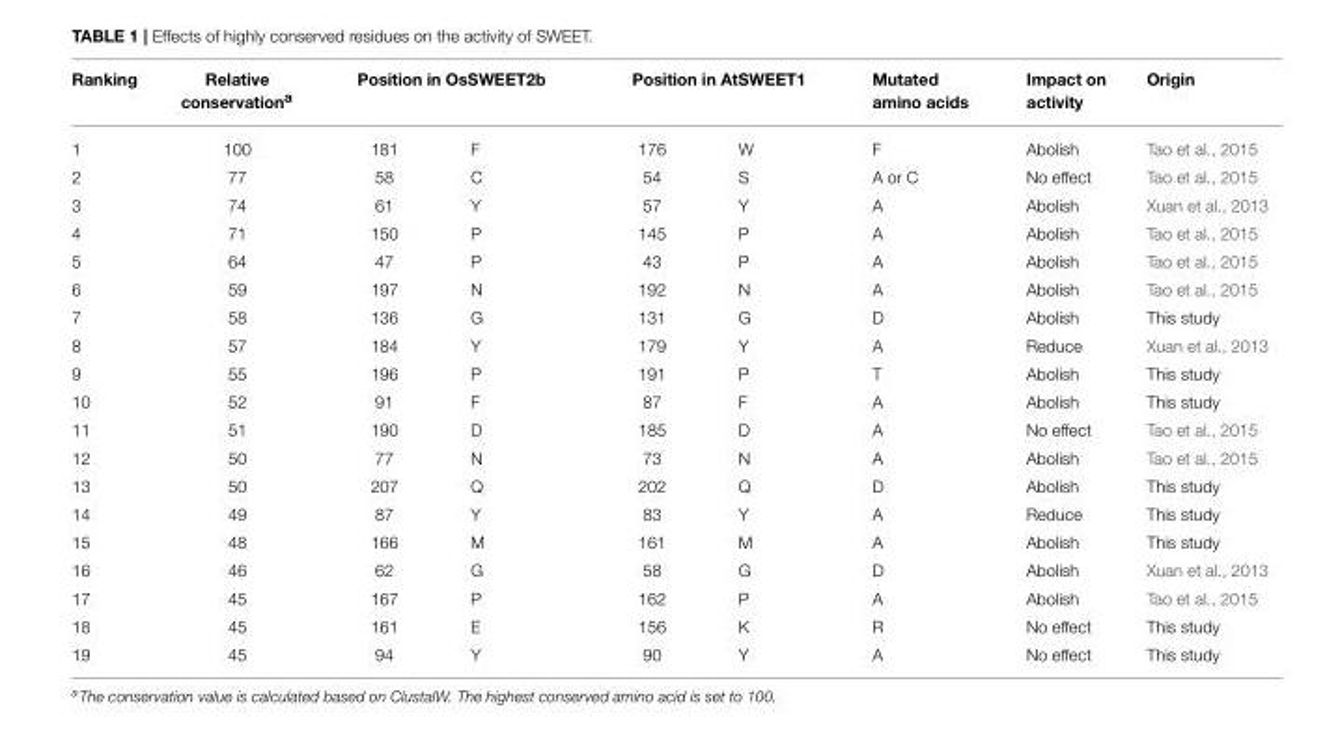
<table><thead><tr><td rowspan="2">Ranking 1</td><td rowspan="2">Relative conservation<sup>a</sup> 100</td><td colspan="2">Position in OsSWEET2b</td><td colspan="2">Position in AtSWEET1</td><td rowspan="2">Mutated amino acids F</td><td rowspan="2">Impact on activity Abolish</td><td rowspan="2">Origin Tao et al., 2015</td></tr><tr><td>181</td><td>F</td><td>176</td><td>W</td></tr></thead><tbody><tr><td>2</td><td>77</td><td>58</td><td>C</td><td>54</td><td>S</td><td>A or C</td><td>No effect</td><td>Tao et al., 2015</td></tr><tr><td>3</td><td>74</td><td>61</td><td>Y</td><td>57</td><td>Y</td><td>A</td><td>Abolish</td><td>Xuan et al., 2013</td></tr><tr><td>4</td><td>71</td><td>150</td><td>P</td><td>145</td><td>P</td><td>A</td><td>Abolish</td><td>Tao et al., 2015</td></tr><tr><td>5</td><td>64</td><td>47</td><td>P</td><td>43</td><td>P</td><td>A</td><td>Abolish</td><td>Tao et al., 2015</td></tr><tr><td>6</td><td>59</td><td>197</td><td>N</td><td>192</td><td>N</td><td>A</td><td>Abolish</td><td>Tao et al., 2015</td></tr><tr><td>7</td><td>58</td><td>136</td><td>G</td><td>131</td><td>G</td><td>D</td><td>Abolish</td><td>This study</td></tr><tr><td>8</td><td>57</td><td>184</td><td>Y</td><td>179</td><td>Y</td><td>A</td><td>Reduce</td><td>Xuan et al., 2013</td></tr><tr><td>9</td><td>55</td><td>196</td><td>P</td><td>191</td><td>P</td><td>T</td><td>Abolish</td><td>This study</td></tr><tr><td>10</td><td>52</td><td>91</td><td>F</td><td>87</td><td>F</td><td>A</td><td>Abolish</td><td>This study</td></tr><tr><td>11</td><td>51</td><td>190</td><td>D</td><td>185</td><td>D</td><td>A</td><td>No effect</td><td>Tao et al., 2015</td></tr><tr><td>12</td><td>50</td><td>77</td><td>N</td><td>73</td><td>N</td><td>A</td><td>Abolish</td><td>Tao et al., 2015</td></tr><tr><td>13</td><td>50</td><td>207</td><td>Q</td><td>202</td><td>Q</td><td>D</td><td>Abolish</td><td>This study</td></tr><tr><td>14</td><td>49</td><td>87</td><td>Y</td><td>83</td><td>Y</td><td>A</td><td>Reduce</td><td>This study</td></tr><tr><td>15</td><td>48</td><td>166</td><td>M</td><td>161</td><td>M</td><td>A</td><td>Abolish</td><td>This study</td></tr><tr><td>16</td><td>46</td><td>62</td><td>G</td><td>58</td><td>G</td><td>D</td><td>Abolish</td><td>Xuan et al., 2013</td></tr><tr><td>17</td><td>45</td><td>167</td><td>P</td><td>162</td><td>P</td><td>A</td><td>Abolish</td><td>Tao et al., 2015</td></tr><tr><td>18</td><td>45</td><td>161</td><td>E</td><td>156</td><td>K</td><td>R</td><td>No effect</td><td>This study</td></tr><tr><td>19</td><td>45</td><td>94</td><td>Y</td><td>90</td><td>Y</td><td>A</td><td>No effect</td><td>This study</td></tr></tbody></table>